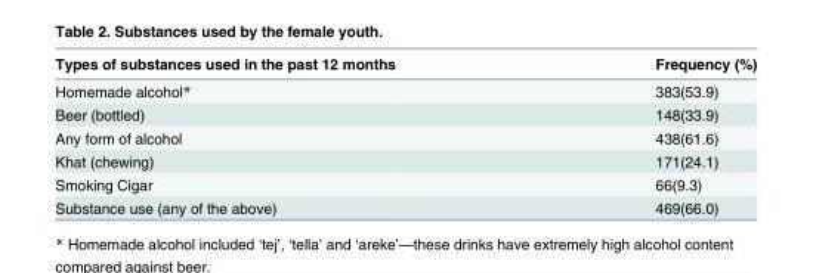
<table><thead><tr><td>Types of substances used in the past 12 months</td><td>Frequency (%)</td></tr></thead><tbody><tr><td>Homemade alcohol*</td><td>383(53.9)</td></tr><tr><td>Beer (bottled)</td><td>148(33.9)</td></tr><tr><td>Any form of alcohol</td><td>438(61.6)</td></tr><tr><td>Khat (chewing)</td><td>171(24.1)</td></tr><tr><td>Smoking Cigar</td><td>66(9.3)</td></tr><tr><td>Substance use (any of the above)</td><td>469(66.0)</td></tr></tbody></table>